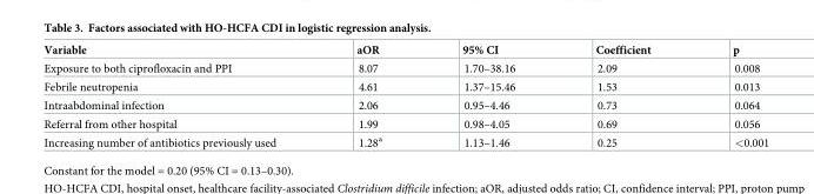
<table><thead><tr><td>Variable</td><td>aOR</td><td>95% CI</td><td>Coefficient</td><td>p</td></tr></thead><tbody><tr><td>Exposure to both ciprofloxacin and PPI</td><td>8.07</td><td>1.70–38.16</td><td>2.09</td><td>0.008</td></tr><tr><td>Febrile neutropenia</td><td>4.61</td><td>1.37–15.46</td><td>1.53</td><td>0.013</td></tr><tr><td>Intraabdominal infection</td><td>2.06</td><td>0.95–4.46</td><td>0.73</td><td>0.064</td></tr><tr><td>Referral from other hospital</td><td>1.99</td><td>0.98–4.05</td><td>0.69</td><td>0.056</td></tr><tr><td>Increasing number of antibiotics previously used</td><td>1.28<sup>a</sup></td><td>1.13–1.46</td><td>0.25</td><td>&lt;0.001</td></tr></tbody></table>